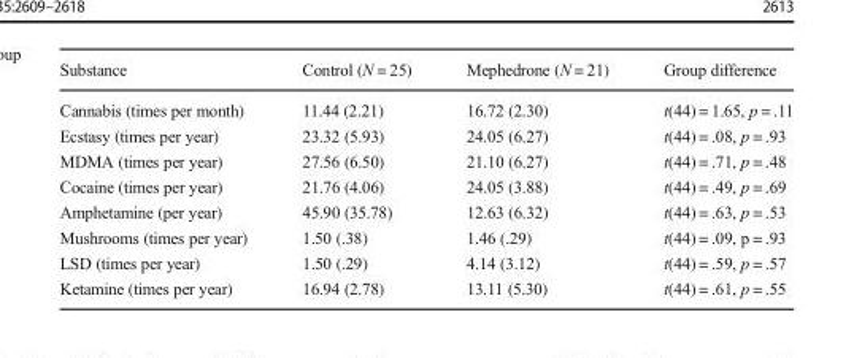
<table><thead><tr><td>Substance</td><td>Control (N = 25)</td><td>Mephedrone (N = 21)</td><td>Group difference</td></tr></thead><tbody><tr><td>Cannabis (times per month)</td><td>11.44 (2.21)</td><td>16.72 (2.30)</td><td>t(44) = 1.65, p = .11</td></tr><tr><td>Ecstasy (times per year)</td><td>23.32 (5.93)</td><td>24.05 (6.27)</td><td>t(44) = .08, p = .93</td></tr><tr><td>MDMA (times per year)</td><td>27.56 (6.50)</td><td>21.10 (6.27)</td><td>t(44) = .71, p = .48</td></tr><tr><td>Cocaine (times per year)</td><td>21.76 (4.06)</td><td>24.05 (3.88)</td><td>t(44) = .49, p = .69</td></tr><tr><td>Amphetamine (per year)</td><td>45.90 (35.78)</td><td>12.63 (6.32)</td><td>t(44) = .63, p = .53</td></tr><tr><td>Mushrooms (times per year)</td><td>1.50 (.38)</td><td>1.46 (.29)</td><td>t(44) = .09, p = .93</td></tr><tr><td>LSD (times per year)</td><td>1.50 (.29)</td><td>4.14 (3.12)</td><td>t(44) = .59, p = .57</td></tr><tr><td>Ketamine (times per year)</td><td>16.94 (2.78)</td><td>13.11 (5.30)</td><td>t(44) = .61, p = .55</td></tr></tbody></table>